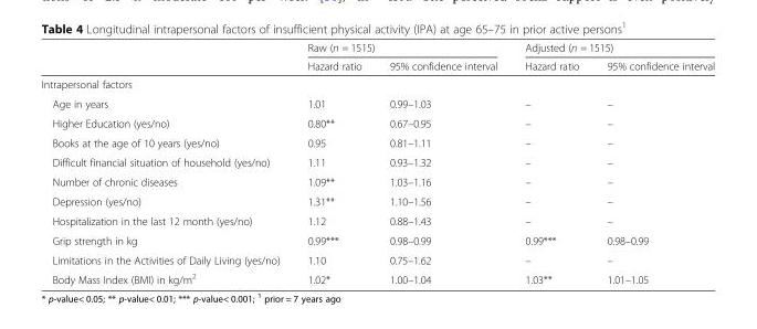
<table><thead><tr><td rowspan="2"></td><td colspan="2">Raw (n = 1515)</td><td colspan="2">Adjusted (n = 1515)</td></tr><tr><td>Hazard ratio</td><td>95% confidence interval</td><td>Hazard ratio</td><td>95% confidence interval</td></tr></thead><tbody><tr><td colspan="5">Intrapersonal factors</td></tr><tr><td>Age in years</td><td>1.01</td><td>0.99–1.03</td><td>–</td><td>–</td></tr><tr><td>Higher Education (yes/no)</td><td>0.80**</td><td>0.67–0.95</td><td>–</td><td>–</td></tr><tr><td>Books at the age of 10 years (yes/no)</td><td>0.95</td><td>0.81–1.11</td><td>–</td><td>–</td></tr><tr><td>Difficult financial situation of household (yes/no)</td><td>1.11</td><td>0.93–1.32</td><td>–</td><td>–</td></tr><tr><td>Number of chronic diseases</td><td>1.09**</td><td>1.03–1.16</td><td>–</td><td>–</td></tr><tr><td>Depression (yes/no)</td><td>1.31**</td><td>1.10–1.56</td><td>–</td><td>–</td></tr><tr><td>Hospitalization in the last 12 month (yes/no)</td><td>1.12</td><td>0.88–1.43</td><td>–</td><td>–</td></tr><tr><td>Grip strength in kg</td><td>0.99***</td><td>0.98–0.99</td><td>0.99***</td><td>0.98–0.99</td></tr><tr><td>Limitations in the Activities of Daily Living (yes/no)</td><td>1.10</td><td>0.75–1.62</td><td>–</td><td>–</td></tr><tr><td>Body Mass Index (BMI) in kg/m<sup>2</sup></td><td>1.02*</td><td>1.00–1.04</td><td>1.03**</td><td>1.01–1.05</td></tr></tbody></table>